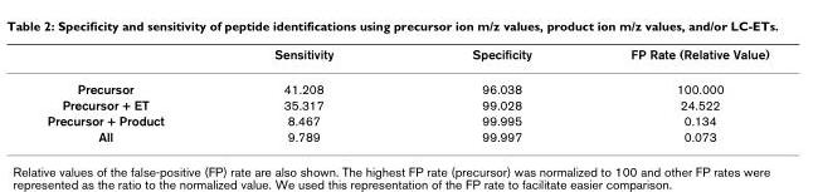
<table><thead><tr><td></td><td>Sensitivity</td><td>Specificity</td><td>FP Rate (Relative Value)</td></tr></thead><tbody><tr><td>Precursor</td><td>41.208</td><td>96.038</td><td>100.000</td></tr><tr><td>Precursor + ET</td><td>35.317</td><td>99.028</td><td>24.522</td></tr><tr><td>Precursor + Product</td><td>8.467</td><td>99.995</td><td>0.134</td></tr><tr><td>All</td><td>9.789</td><td>99.997</td><td>0.073</td></tr></tbody></table>